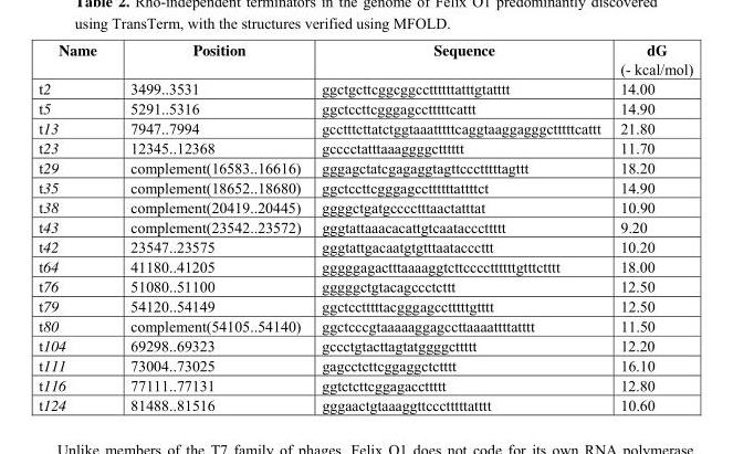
<table><thead><tr><td>Name</td><td>Position</td><td>Sequence</td><td>dG (- kcal/mol)</td></tr></thead><tbody><tr><td>t2</td><td>3499..3531</td><td>ggctgcttcggcggccttttttatttgtatttt</td><td>14.00</td></tr><tr><td>t5</td><td>5291..5316</td><td>ggctccttcgggagcctttttcattt</td><td>14.90</td></tr><tr><td>t13</td><td>7947..7994</td><td>gcctttcttatctggtaaatttttcaggtaaggagggctttttcattt</td><td>21.80</td></tr><tr><td>t23</td><td>12345..12368</td><td>gcccctatttaaaggggctttttt</td><td>11.70</td></tr><tr><td>t29</td><td>complement(16583..16616)</td><td>gggagctatcgagaggtagttccctttttagttt</td><td>18.20</td></tr><tr><td>t35</td><td>complement(18652..18680)</td><td>ggctccttcgggagccttttttattttct</td><td>14.90</td></tr><tr><td>t38</td><td>complement(20419..20445)</td><td>ggggctgatgcccctttaactatttat</td><td>10.90</td></tr><tr><td>t43</td><td>complement(23542..23572)</td><td>gggtattaaacacattgtcaatacccttttt</td><td>9.20</td></tr><tr><td>t42</td><td>23547..23575</td><td>gggtattgacaatgtgtttaatacccttt</td><td>10.20</td></tr><tr><td>t64</td><td>41180..41205</td><td>gggggagactttaaaaggtcttccccttttttgtttctttt</td><td>18.00</td></tr><tr><td>t76</td><td>51080..51100</td><td>gggggctgtacagccctcttt</td><td>12.50</td></tr><tr><td>t79</td><td>54120..54149</td><td>ggctcctttttacgggagcctttttgtttt</td><td>12.50</td></tr><tr><td>t80</td><td>complement(54105..54140)</td><td>ggctcccgtaaaaaggagccttaaaattttatttt</td><td>11.50</td></tr><tr><td>t104</td><td>69298..69323</td><td>gccctgtacttagtatggggcttttt</td><td>12.20</td></tr><tr><td>t111</td><td>73004..73025</td><td>gagcctcttcggaggctctttt</td><td>16.10</td></tr><tr><td>t116</td><td>77111..77131</td><td>ggtctcttcggagaccttttt</td><td>12.80</td></tr><tr><td>t124</td><td>81488..81516</td><td>gggaactgtaaaggttccctttttatttt</td><td>10.60</td></tr></tbody></table>